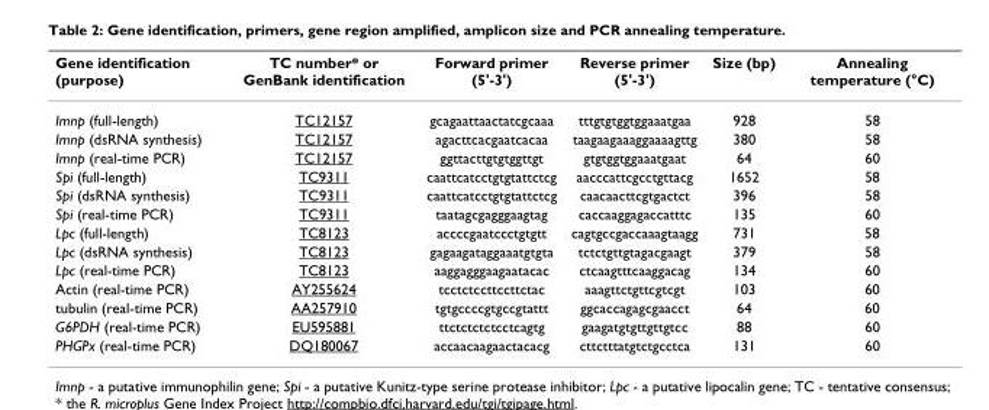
<table><thead><tr><td>Gene identification (purpose)</td><td>TC number* or GenBank identification</td><td>Forward primer (5&#x27;-3&#x27;)</td><td>Reverse primer (5&#x27;-3&#x27;)</td><td>Size (bp)</td><td>Annealing temperature (°C)</td></tr></thead><tbody><tr><td>Imnp (full-length)</td><td>TC12157</td><td>gcagaattaactatcgcaaa</td><td>tttgtgtggtggaaatgaa</td><td>928</td><td>58</td></tr><tr><td>Imnp (dsRNA synthesis)</td><td>TC12157</td><td>agacttcacgaatcacaa</td><td>taagaagaaaggaaaagttg</td><td>380</td><td>58</td></tr><tr><td>Imnp (real-time PCR)</td><td>TC12157</td><td>ggttacttgtgtggttgt</td><td>gtgtggtggaaatgaat</td><td>64</td><td>60</td></tr><tr><td>Spi (full-length)</td><td>TC9311</td><td>caattcatcctgtgtattctcg</td><td>aacccattcgcctgttacg</td><td>1652</td><td>58</td></tr><tr><td>Spi (dsRNA synthesis)</td><td>TC9311</td><td>caattcatcctgtgtattctcg</td><td>caacaacttcgtgactct</td><td>396</td><td>58</td></tr><tr><td>Spi (real-time PCR)</td><td>TC9311</td><td>taatagcgagggaagtag</td><td>caccaaggagaccatttc</td><td>135</td><td>60</td></tr><tr><td>Lpc (full-length)</td><td>TC8123</td><td>accccgaatccctgtgtt</td><td>cagtgccgaccaaagtaagg</td><td>731</td><td>58</td></tr><tr><td>Lpc (dsRNA synthesis)</td><td>TC8123</td><td>gagaagataggaaatgtgta</td><td>tctctgttgtagacgaagt</td><td>379</td><td>58</td></tr><tr><td>Lpc (real-time PCR)</td><td>TC8123</td><td>aaggagggaagaatacac</td><td>ctcaagtttcaaggacag</td><td>134</td><td>60</td></tr><tr><td>Actin (real-time PCR)</td><td>AY255624</td><td>tcctctccttccttctac</td><td>aaagttctgttcgtcgt</td><td>103</td><td>60</td></tr><tr><td>tubulin (real-time PCR)</td><td>AA257910</td><td>tgtgccccgtgccgtattt</td><td>ggcaccagagcgaacct</td><td>64</td><td>60</td></tr><tr><td>G6PDH (real-time PCR)</td><td>EU595881</td><td>ttctctctctcctcagtg</td><td>gaagatgtgttgttgtcc</td><td>88</td><td>60</td></tr><tr><td>PHGPx (real-time PCR)</td><td>DQ180067</td><td>accaacaagaactacacg</td><td>cttctttatgtctgcctca</td><td>131</td><td>60</td></tr></tbody></table>